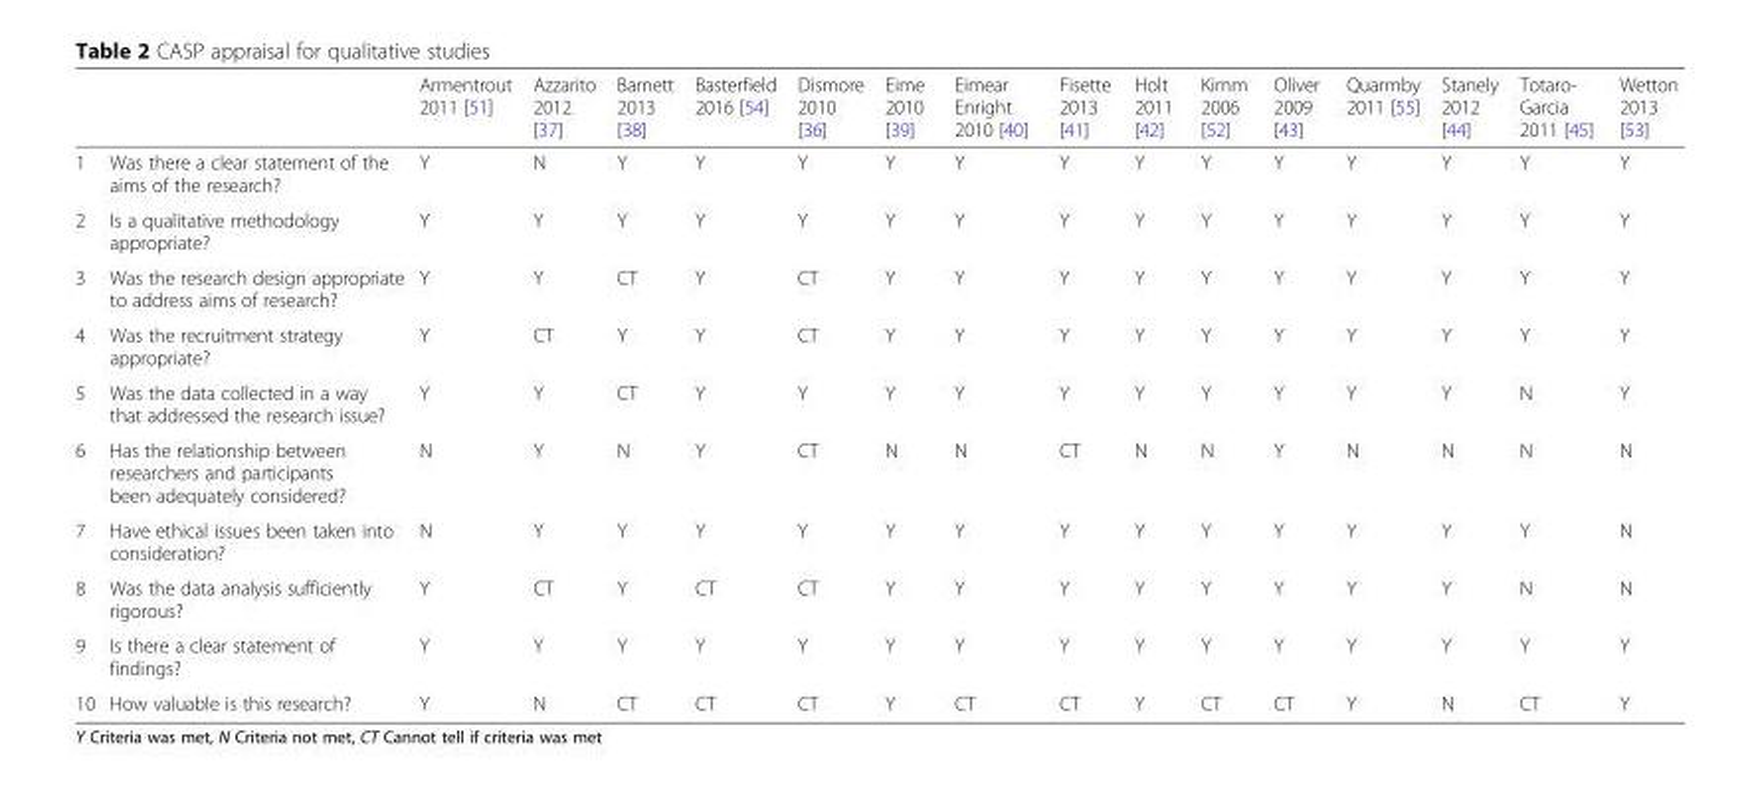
<table><thead><tr><td></td><td></td><td>Armentrout 2011 [51]</td><td>Azzarito 2012 [37]</td><td>Barnett 2013 [38]</td><td>Basterfield 2016 [54]</td><td>Dismore 2010 [36]</td><td>Eime 2010 [39]</td><td>Eimear Enright 2010 [40]</td><td>Fisette 2013 [41]</td><td>Holt 2011 [42]</td><td>Kimm 2006 [52]</td><td>Oliver 2009 [43]</td><td>Quarmby 2011 [55]</td><td>Stanely 2012 [44]</td><td>Totaro- Garcia 2011 [45]</td><td>Wetton 2013 [53]</td></tr></thead><tbody><tr><td>1</td><td>Was there a clear statement of the aims of the research?</td><td>Y</td><td>N</td><td>Y</td><td>Y</td><td>Y</td><td>Y</td><td>Y</td><td>Y</td><td>Y</td><td>Y</td><td>Y</td><td>Y</td><td>Y</td><td>Y</td><td>Y</td></tr><tr><td>2</td><td>Is a qualitative methodology appropriate?</td><td>Y</td><td>Y</td><td>Y</td><td>Y</td><td>Y</td><td>Y</td><td>Y</td><td>Y</td><td>Y</td><td>Y</td><td>Y</td><td>Y</td><td>Y</td><td>Y</td><td>Y</td></tr><tr><td>3</td><td>Was the research design appropriate to address aims of research?</td><td>Y</td><td>Y</td><td>CT</td><td>Y</td><td>CT</td><td>Y</td><td>Y</td><td>Y</td><td>Y</td><td>Y</td><td>Y</td><td>Y</td><td>Y</td><td>Y</td><td>Y</td></tr><tr><td>4</td><td>Was the recruitment strategy appropriate?</td><td>Y</td><td>CT</td><td>Y</td><td>Y</td><td>CT</td><td>Y</td><td>Y</td><td>Y</td><td>Y</td><td>Y</td><td>Y</td><td>Y</td><td>Y</td><td>Y</td><td>Y</td></tr><tr><td>5</td><td>Was the data collected in a way that addressed the research issue?</td><td>Y</td><td>Y</td><td>CT</td><td>Y</td><td>Y</td><td>Y</td><td>Y</td><td>Y</td><td>Y</td><td>Y</td><td>Y</td><td>Y</td><td>Y</td><td>N</td><td>Y</td></tr><tr><td>6</td><td>Has the relationship between researchers and participants been adequately considered?</td><td>N</td><td>Y</td><td>N</td><td>Y</td><td>CT</td><td>N</td><td>N</td><td>CT</td><td>N</td><td>N</td><td>Y</td><td>N</td><td>N</td><td>N</td><td>N</td></tr><tr><td>7</td><td>Have ethical issues been taken into consideration?</td><td>N</td><td>Y</td><td>Y</td><td>Y</td><td>Y</td><td>Y</td><td>Y</td><td>Y</td><td>Y</td><td>Y</td><td>Y</td><td>Y</td><td>Y</td><td>Y</td><td>N</td></tr><tr><td>8</td><td>Was the data analysis sufficiently rigorous?</td><td>Y</td><td>CT</td><td>Y</td><td>CT</td><td>CT</td><td>Y</td><td>Y</td><td>Y</td><td>Y</td><td>Y</td><td>Y</td><td>Y</td><td>Y</td><td>N</td><td>N</td></tr><tr><td>9</td><td>Is there a clear statement of findings?</td><td>Y</td><td>Y</td><td>Y</td><td>Y</td><td>Y</td><td>Y</td><td>Y</td><td>Y</td><td>Y</td><td>Y</td><td>Y</td><td>Y</td><td>Y</td><td>Y</td><td>Y</td></tr><tr><td>10</td><td>How valuable is this research?</td><td>Y</td><td>N</td><td>CT</td><td>CT</td><td>CT</td><td>Y</td><td>CT</td><td>CT</td><td>Y</td><td>CT</td><td>CT</td><td>Y</td><td>N</td><td>CT</td><td>Y</td></tr></tbody></table>